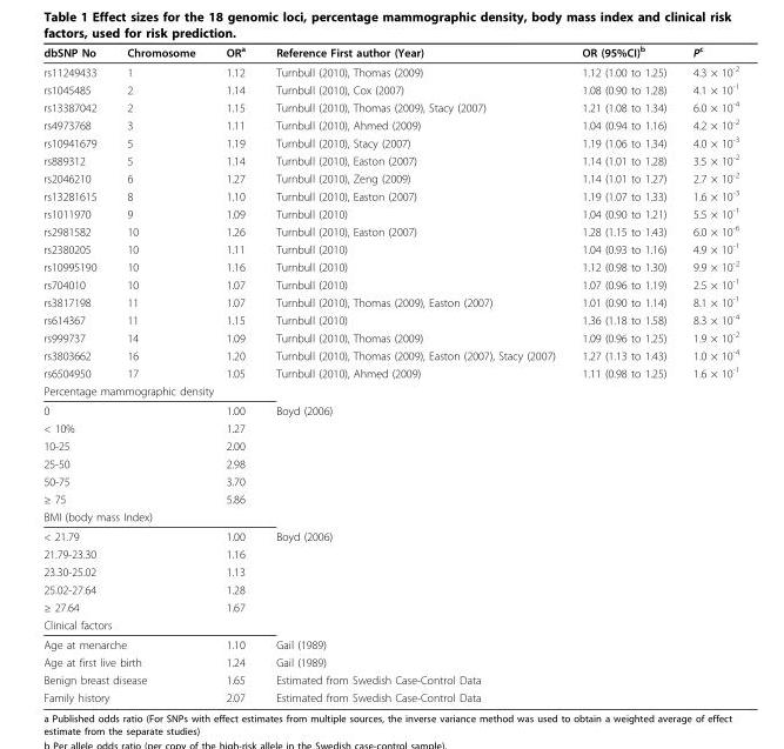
<table><thead><tr><td>dbSNP No</td><td>Chromosome</td><td>OR<sup>a</sup></td><td>Reference First author (Year)</td><td>OR (95%CI)<sup>b</sup></td><td>P<sup>c</sup></td></tr></thead><tbody><tr><td>rs11249433</td><td>1</td><td>1.12</td><td>Turnbull (2010), Thomas (2009)</td><td>1.12 (1.00 to 1.25)</td><td>4.3 × 10<sup>-2</sup></td></tr><tr><td>rs1045485</td><td>2</td><td>1.14</td><td>Turnbull (2010), Cox (2007)</td><td>1.08 (0.90 to 1.28)</td><td>4.1 × 10<sup>-1</sup></td></tr><tr><td>rs13387042</td><td>2</td><td>1.15</td><td>Turnbull (2010), Thomas (2009), Stacy (2007)</td><td>1.21 (1.08 to 1.34)</td><td>6.0 × 10<sup>-4</sup></td></tr><tr><td>rs4973768</td><td>3</td><td>1.11</td><td>Turnbull (2010), Ahmed (2009)</td><td>1.04 (0.94 to 1.16)</td><td>4.2 × 10<sup>-2</sup></td></tr><tr><td>rs10941679</td><td>5</td><td>1.19</td><td>Turnbull (2010), Stacy (2007)</td><td>1.19 (1.06 to 1.34)</td><td>4.0 × 10<sup>-3</sup></td></tr><tr><td>rs889312</td><td>5</td><td>1.14</td><td>Turnbull (2010), Easton (2007)</td><td>1.14 (1.01 to 1.28)</td><td>3.5 × 10<sup>-2</sup></td></tr><tr><td>rs2046210</td><td>6</td><td>1.27</td><td>Turnbull (2010), Zeng (2009)</td><td>1.14 (1.01 to 1.27)</td><td>2.7 × 10<sup>-2</sup></td></tr><tr><td>rs13281615</td><td>8</td><td>1.10</td><td>Turnbull (2010), Easton (2007)</td><td>1.19 (1.07 to 1.33)</td><td>1.6 × 10<sup>-3</sup></td></tr><tr><td>rs1011970</td><td>9</td><td>1.09</td><td>Turnbull (2010)</td><td>1.04 (0.90 to 1.21)</td><td>5.5 × 10<sup>-1</sup></td></tr><tr><td>rs2981582</td><td>10</td><td>1.26</td><td>Turnbull (2010), Easton (2007)</td><td>1.28 (1.15 to 1.43)</td><td>6.0 × 10<sup>-6</sup></td></tr><tr><td>rs2380205</td><td>10</td><td>1.11</td><td>Turnbull (2010)</td><td>1.04 (0.93 to 1.16)</td><td>4.9 × 10<sup>-1</sup></td></tr><tr><td>rs10995190</td><td>10</td><td>1.16</td><td>Turnbull (2010)</td><td>1.12 (0.98 to 1.30)</td><td>9.9 × 10<sup>-2</sup></td></tr><tr><td>rs704010</td><td>10</td><td>1.07</td><td>Turnbull (2010)</td><td>1.07 (0.96 to 1.19)</td><td>2.5 × 10<sup>-1</sup></td></tr><tr><td>rs3817198</td><td>11</td><td>1.07</td><td>Turnbull (2010), Thomas (2009), Easton (2007)</td><td>1.01 (0.90 to 1.14)</td><td>8.1 × 10<sup>-1</sup></td></tr><tr><td>rs614367</td><td>11</td><td>1.15</td><td>Turnbull (2010)</td><td>1.36 (1.18 to 1.58)</td><td>8.3 × 10<sup>-4</sup></td></tr><tr><td>rs999737</td><td>14</td><td>1.09</td><td>Turnbull (2010), Thomas (2009)</td><td>1.09 (0.96 to 1.25)</td><td>1.9 × 10<sup>-2</sup></td></tr><tr><td>rs3803662</td><td>16</td><td>1.20</td><td>Turnbull (2010), Thomas (2009), Easton (2007), Stacy (2007)</td><td>1.27 (1.13 to 1.43)</td><td>1.0 × 10<sup>-4</sup></td></tr><tr><td>rs6504950</td><td>17</td><td>1.05</td><td>Turnbull (2010), Ahmed (2009)</td><td>1.11 (0.98 to 1.25)</td><td>1.6 × 10<sup>-1</sup></td></tr><tr><td colspan="6">Percentage mammographic density</td></tr><tr><td>0</td><td></td><td>1.00</td><td>Boyd (2006)</td><td></td><td></td></tr><tr><td>&lt; 10%</td><td></td><td>1.27</td><td></td><td></td><td></td></tr><tr><td>10-25</td><td></td><td>2.00</td><td></td><td></td><td></td></tr><tr><td>25-50</td><td></td><td>2.98</td><td></td><td></td><td></td></tr><tr><td>50-75</td><td></td><td>3.70</td><td></td><td></td><td></td></tr><tr><td>≥ 75</td><td></td><td>5.86</td><td></td><td></td><td></td></tr><tr><td colspan="6">BMI (body mass Index)</td></tr><tr><td>&lt; 21.79</td><td></td><td>1.00</td><td>Boyd (2006)</td><td></td><td></td></tr><tr><td>21.79-23.30</td><td></td><td>1.16</td><td></td><td></td><td></td></tr><tr><td>23.30-25.02</td><td></td><td>1.13</td><td></td><td></td><td></td></tr><tr><td>25.02-27.64</td><td></td><td>1.28</td><td></td><td></td><td></td></tr><tr><td>≥ 27.64</td><td></td><td>1.67</td><td></td><td></td><td></td></tr><tr><td colspan="6">Clinical factors</td></tr><tr><td colspan="2">Age at menarche</td><td>1.10</td><td>Gail (1989)</td><td></td><td></td></tr><tr><td colspan="2">Age at first live birth</td><td>1.24</td><td>Gail (1989)</td><td></td><td></td></tr><tr><td colspan="2">Benign breast disease</td><td>1.65</td><td>Estimated from Swedish Case-Control Data</td><td></td><td></td></tr><tr><td colspan="2">Family history</td><td>2.07</td><td>Estimated from Swedish Case-Control Data</td><td></td><td></td></tr></tbody></table>